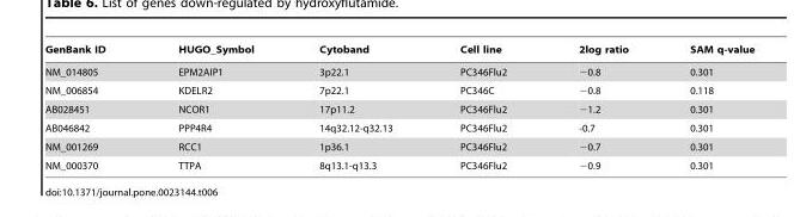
<table><thead><tr><td>GenBank ID</td><td>HUGO_Symbol</td><td>Cytoband</td><td>Cell line</td><td>2log ratio</td><td>SAM q-value</td></tr></thead><tbody><tr><td>NM_014805</td><td>EPM2AIP1</td><td>3p22.1</td><td>PC346Flu2</td><td>−0.8</td><td>0.301</td></tr><tr><td>NM_006854</td><td>KDELR2</td><td>7p22.1</td><td>PC346C</td><td>−0.8</td><td>0.118</td></tr><tr><td>AB028451</td><td>NCOR1</td><td>17p11.2</td><td>PC346Flu2</td><td>−1.2</td><td>0.301</td></tr><tr><td>AB046842</td><td>PPP4R4</td><td>14q32.12-q32.13</td><td>PC346Flu2</td><td>-0.7</td><td>0.301</td></tr><tr><td>NM_001269</td><td>RCC1</td><td>1p36.1</td><td>PC346Flu2</td><td>−0.7</td><td>0.301</td></tr><tr><td>NM_000370</td><td>TTPA</td><td>8q13.1-q13.3</td><td>PC346Flu2</td><td>−0.9</td><td>0.301</td></tr></tbody></table>